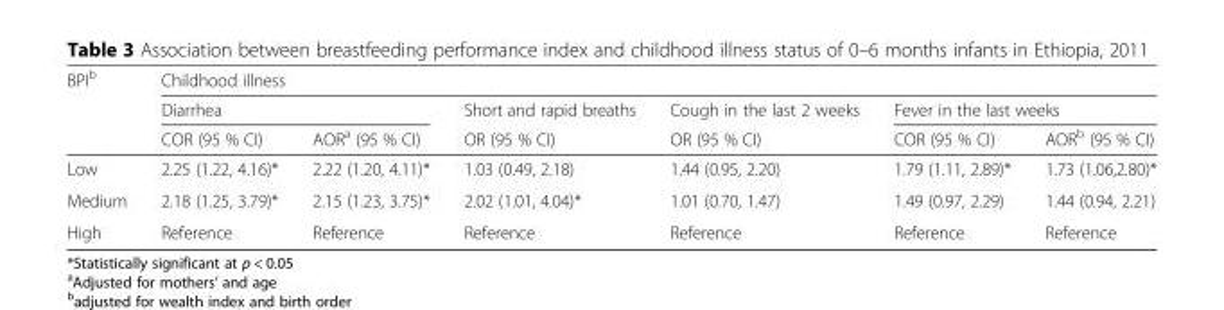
<table><thead><tr><td rowspan="3">BPI<sup>b</sup></td><td colspan="6">Childhood illness</td></tr><tr><td colspan="2">Diarrhea</td><td rowspan="2">Short and rapid breaths OR (95 % CI)</td><td rowspan="2">Cough in the last 2 weeks OR (95 % CI)</td><td colspan="2">Fever in the last weeks</td></tr><tr><td>COR (95 % CI)</td><td>AOR<sup>a</sup> (95 % CI)</td><td>COR (95 % CI)</td><td>AOR<sup>b</sup> (95 % CI)</td></tr></thead><tbody><tr><td>Low</td><td>2.25 (1.22, 4.16)*</td><td>2.22 (1.20, 4.11)*</td><td>1.03 (0.49, 2.18)</td><td>1.44 (0.95, 2.20)</td><td>1.79 (1.11, 2.89)*</td><td>1.73 (1.06,2.80)*</td></tr><tr><td>Medium</td><td>2.18 (1.25, 3.79)*</td><td>2.15 (1.23, 3.75)*</td><td>2.02 (1.01, 4.04)*</td><td>1.01 (0.70, 1.47)</td><td>1.49 (0.97, 2.29)</td><td>1.44 (0.94, 2.21)</td></tr><tr><td>High</td><td>Reference</td><td>Reference</td><td>Reference</td><td>Reference</td><td>Reference</td><td>Reference</td></tr></tbody></table>